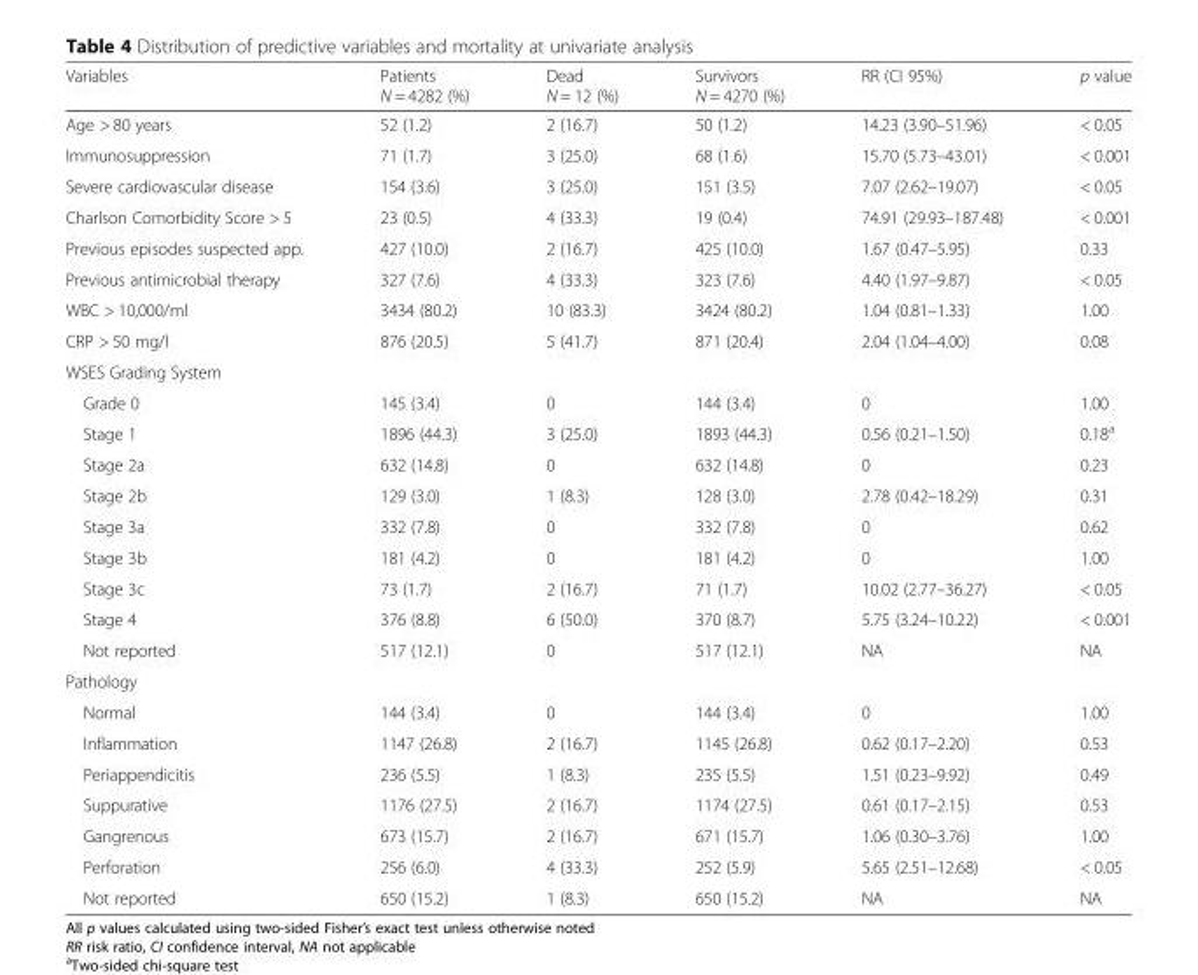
<table><thead><tr><td>Variables</td><td>Patients N = 4282 (%)</td><td>Dead N = 12 (%)</td><td>Survivors N = 4270 (%)</td><td>RR (CI 95%)</td><td>p value</td></tr></thead><tbody><tr><td>Age &gt; 80 years</td><td>52 (1.2)</td><td>2 (16.7)</td><td>50 (1.2)</td><td>14.23 (3.90–51.96)</td><td>&lt; 0.05</td></tr><tr><td>Immunosuppression</td><td>71 (1.7)</td><td>3 (25.0)</td><td>68 (1.6)</td><td>15.70 (5.73–43.01)</td><td>&lt; 0.001</td></tr><tr><td>Severe cardiovascular disease</td><td>154 (3.6)</td><td>3 (25.0)</td><td>151 (3.5)</td><td>7.07 (2.62–19.07)</td><td>&lt; 0.05</td></tr><tr><td>Charlson Comorbidity Score &gt; 5</td><td>23 (0.5)</td><td>4 (33.3)</td><td>19 (0.4)</td><td>74.91 (29.93–187.48)</td><td>&lt; 0.001</td></tr><tr><td>Previous episodes suspected app.</td><td>427 (10.0)</td><td>2 (16.7)</td><td>425 (10.0)</td><td>1.67 (0.47–5.95)</td><td>0.33</td></tr><tr><td>Previous antimicrobial therapy</td><td>327 (7.6)</td><td>4 (33.3)</td><td>323 (7.6)</td><td>4.40 (1.97–9.87)</td><td>&lt; 0.05</td></tr><tr><td>WBC &gt; 10,000/ml</td><td>3434 (80.2)</td><td>10 (83.3)</td><td>3424 (80.2)</td><td>1.04 (0.81–1.33)</td><td>1.00</td></tr><tr><td>CRP &gt; 50 mg/l</td><td>876 (20.5)</td><td>5 (41.7)</td><td>871 (20.4)</td><td>2.04 (1.04–4.00)</td><td>0.08</td></tr><tr><td colspan="6">WSES Grading System</td></tr><tr><td>Grade 0</td><td>145 (3.4)</td><td>0</td><td>144 (3.4)</td><td>0</td><td>1.00</td></tr><tr><td>Stage 1</td><td>1896 (44.3)</td><td>3 (25.0)</td><td>1893 (44.3)</td><td>0.56 (0.21–1.50)</td><td>0.18<sup>a</sup></td></tr><tr><td>Stage 2a</td><td>632 (14.8)</td><td>0</td><td>632 (14.8)</td><td>0</td><td>0.23</td></tr><tr><td>Stage 2b</td><td>129 (3.0)</td><td>1 (8.3)</td><td>128 (3.0)</td><td>2.78 (0.42–18.29)</td><td>0.31</td></tr><tr><td>Stage 3a</td><td>332 (7.8)</td><td>0</td><td>332 (7.8)</td><td>0</td><td>0.62</td></tr><tr><td>Stage 3b</td><td>181 (4.2)</td><td>0</td><td>181 (4.2)</td><td>0</td><td>1.00</td></tr><tr><td>Stage 3c</td><td>73 (1.7)</td><td>2 (16.7)</td><td>71 (1.7)</td><td>10.02 (2.77–36.27)</td><td>&lt; 0.05</td></tr><tr><td>Stage 4</td><td>376 (8.8)</td><td>6 (50.0)</td><td>370 (8.7)</td><td>5.75 (3.24–10.22)</td><td>&lt; 0.001</td></tr><tr><td>Not reported</td><td>517 (12.1)</td><td>0</td><td>517 (12.1)</td><td>NA</td><td>NA</td></tr><tr><td colspan="6">Pathology</td></tr><tr><td>Normal</td><td>144 (3.4)</td><td>0</td><td>144 (3.4)</td><td>0</td><td>1.00</td></tr><tr><td>Inflammation</td><td>1147 (26.8)</td><td>2 (16.7)</td><td>1145 (26.8)</td><td>0.62 (0.17–2.20)</td><td>0.53</td></tr><tr><td>Periappendicitis</td><td>236 (5.5)</td><td>1 (8.3)</td><td>235 (5.5)</td><td>1.51 (0.23–9.92)</td><td>0.49</td></tr><tr><td>Suppurative</td><td>1176 (27.5)</td><td>2 (16.7)</td><td>1174 (27.5)</td><td>0.61 (0.17–2.15)</td><td>0.53</td></tr><tr><td>Gangrenous</td><td>673 (15.7)</td><td>2 (16.7)</td><td>671 (15.7)</td><td>1.06 (0.30–3.76)</td><td>1.00</td></tr><tr><td>Perforation</td><td>256 (6.0)</td><td>4 (33.3)</td><td>252 (5.9)</td><td>5.65 (2.51–12.68)</td><td>&lt; 0.05</td></tr><tr><td>Not reported</td><td>650 (15.2)</td><td>1 (8.3)</td><td>650 (15.2)</td><td>NA</td><td>NA</td></tr></tbody></table>